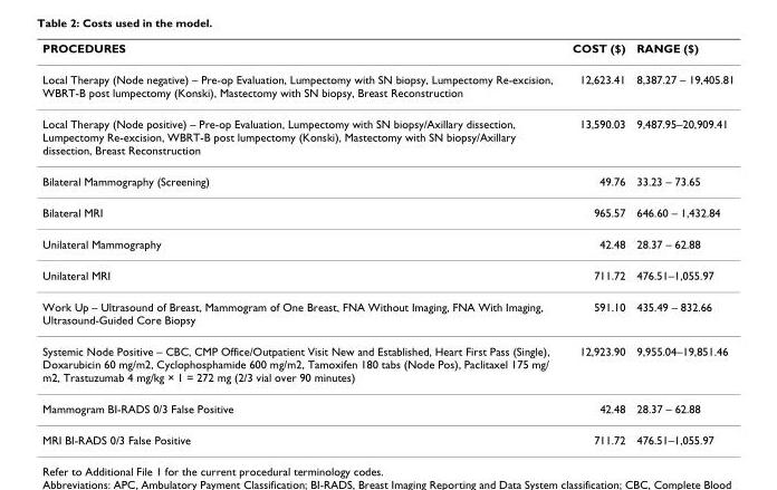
<table><thead><tr><td>PROCEDURES</td><td>COST ($)</td><td>RANGE ($)</td></tr></thead><tbody><tr><td>Local Therapy (Node negative) – Pre-op Evaluation, Lumpectomy with SN biopsy, Lumpectomy Re-excision, WBRT-B post lumpectomy (Konski), Mastectomy with SN biopsy, Breast Reconstruction</td><td>12,623.41</td><td>8,387.27 – 19,405.81</td></tr><tr><td>Local Therapy (Node positive) – Pre-op Evaluation, Lumpectomy with SN biopsy/Axillary dissection, Lumpectomy Re-excision, WBRT-B post lumpectomy (Konski), Mastectomy with SN biopsy/Axillary dissection, Breast Reconstruction</td><td>13,590.03</td><td>9,487.95–20,909.41</td></tr><tr><td>Bilateral Mammography (Screening)</td><td>49.76</td><td>33.23 – 73.65</td></tr><tr><td>Bilateral MRI</td><td>965.57</td><td>646.60 – 1,432.84</td></tr><tr><td>Unilateral Mammography</td><td>42.48</td><td>28.37 – 62.88</td></tr><tr><td>Unilateral MRI</td><td>711.72</td><td>476.51–1,055.97</td></tr><tr><td>Work Up – Ultrasound of Breast, Mammogram of One Breast, FNA Without Imaging, FNA With Imaging, Ultrasound-Guided Core Biopsy</td><td>591.10</td><td>435.49 – 832.66</td></tr><tr><td>Systemic Node Positive – CBC, CMP Office/Outpatient Visit New and Established, Heart First Pass (Single), Doxarubicin 60 mg/m2, Cyclophosphamide 600 mg/m2, Tamoxifen 180 tabs (Node Pos), Paclitaxel 175 mg/ m2, Trastuzumab 4 mg/kg × 1 = 272 mg (2/3 vial over 90 minutes)</td><td>12,923.90</td><td>9,955.04–19,851.46</td></tr><tr><td>Mammogram BI-RADS 0/3 False Positive</td><td>42.48</td><td>28.37 – 62.88</td></tr><tr><td>MRI BI-RADS 0/3 False Positive</td><td>711.72</td><td>476.51–1,055.97</td></tr></tbody></table>